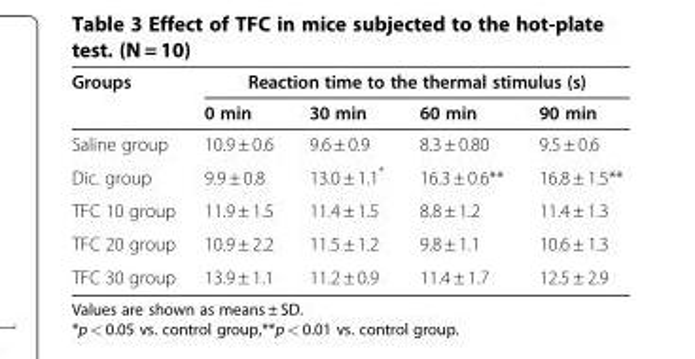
<table><thead><tr><td rowspan="2">Groups</td><td colspan="4">Reaction time to the thermal stimulus (s)</td></tr><tr><td>0 min</td><td>30 min</td><td>60 min</td><td>90 min</td></tr></thead><tbody><tr><td>Saline group</td><td>10.9 ± 0.6</td><td>9.6 ± 0.9</td><td>8.3 ± 0.80</td><td>9.5 ± 0.6</td></tr><tr><td>Dic. group</td><td>9.9 ± 0.8</td><td>13.0 ± 1.1*</td><td>16.3 ± 0.6**</td><td>16.8 ± 1.5**</td></tr><tr><td>TFC 10 group</td><td>11.9 ± 1.5</td><td>11.4 ± 1.5</td><td>8.8 ± 1.2</td><td>11.4 ± 1.3</td></tr><tr><td>TFC 20 group</td><td>10.9 ± 2.2</td><td>11.5 ± 1.2</td><td>9.8 ± 1.1</td><td>10.6 ± 1.3</td></tr><tr><td>TFC 30 group</td><td>13.9 ± 1.1</td><td>11.2 ± 0.9</td><td>11.4 ± 1.7</td><td>12.5 ± 2.9</td></tr></tbody></table>